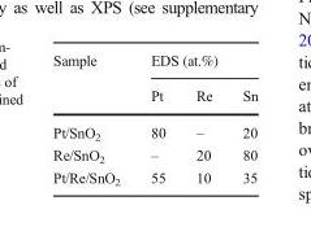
<table><thead><tr><td rowspan="2">Sample</td><td colspan="3">EDS (at.%)</td></tr><tr><td>Pt</td><td>Re</td><td>Sn</td></tr></thead><tbody><tr><td>Pt/SnO<sub>2</sub></td><td>80</td><td>–</td><td>20</td></tr><tr><td>Re/SnO<sub>2</sub></td><td>–</td><td>20</td><td>80</td></tr><tr><td>Pt/Re/SnO<sub>2</sub></td><td>55</td><td>10</td><td>35</td></tr></tbody></table>